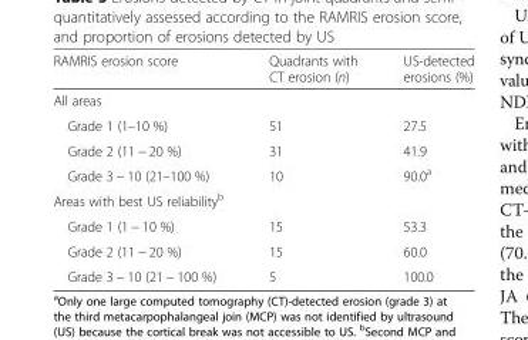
<table><thead><tr><td>RAMRIS erosion score</td><td>Quadrants with CT erosion (n)</td><td>US-detected erosions (%)</td></tr></thead><tbody><tr><td colspan="3">All areas</td></tr><tr><td>Grade 1 (1–10 %)</td><td>51</td><td>27.5</td></tr><tr><td>Grade 2 (11 − 20 %)</td><td>31</td><td>41.9</td></tr><tr><td>Grade 3 − 10 (21–100 %)</td><td>10</td><td>90.0<sup>a</sup></td></tr><tr><td colspan="3">Areas with best US reliability<sup>b</sup></td></tr><tr><td>Grade 1 (1 − 10 %)</td><td>15</td><td>53.3</td></tr><tr><td>Grade 2 (11 − 20 %)</td><td>15</td><td>60.0</td></tr><tr><td>Grade 3 − 10 (21 − 100 %)</td><td>5</td><td>100.0</td></tr></tbody></table>